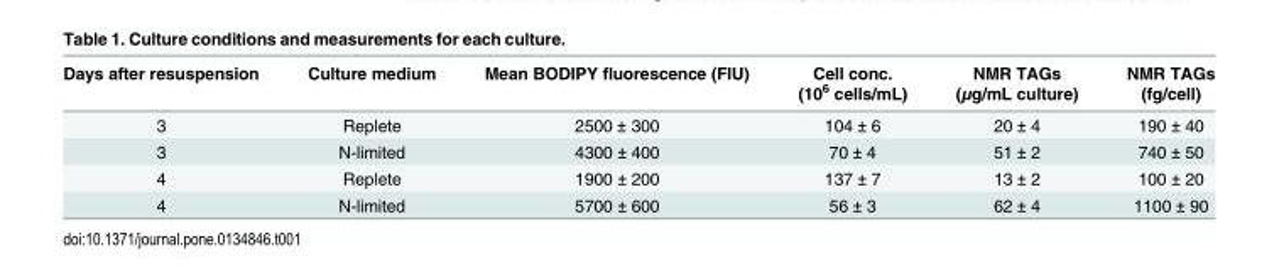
<table><thead><tr><td>Days after resuspension</td><td>Culture medium</td><td>Mean BODIPY fluorescence (FIU)</td><td>Cell conc. (10<sup>6</sup> cells/mL)</td><td>NMR TAGs (μg/mL culture)</td><td>NMR TAGs (fg/cell)</td></tr></thead><tbody><tr><td>3</td><td>Replete</td><td>2500 ± 300</td><td>104 ± 6</td><td>20 ± 4</td><td>190 ± 40</td></tr><tr><td>3</td><td>N-limited</td><td>4300 ± 400</td><td>70 ± 4</td><td>51 ± 2</td><td>740 ± 50</td></tr><tr><td>4</td><td>Replete</td><td>1900 ± 200</td><td>137 ± 7</td><td>13 ± 2</td><td>100 ± 20</td></tr><tr><td>4</td><td>N-limited</td><td>5700 ± 600</td><td>56 ± 3</td><td>62 ± 4</td><td>1100 ± 90</td></tr></tbody></table>